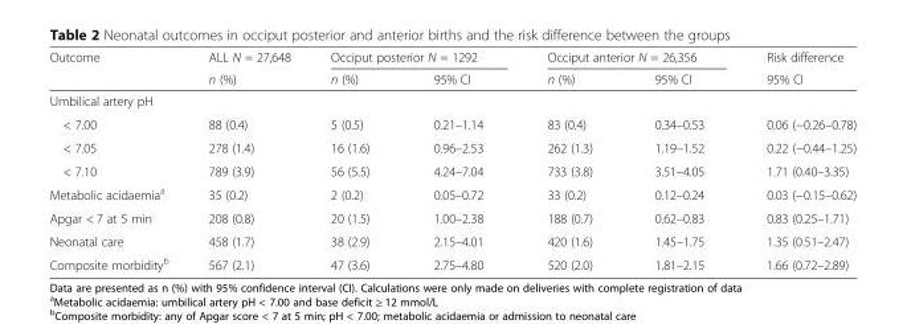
<table><thead><tr><td rowspan="2">Outcome</td><td rowspan="2">ALL N = 27,648 n (%)</td><td colspan="2">Occiput posterior N = 1292</td><td colspan="2">Occiput anterior N = 26,356</td><td rowspan="2">Risk difference 95% CI</td></tr><tr><td>n (%)</td><td>95% CI</td><td>n (%)</td><td>95% CI</td></tr></thead><tbody><tr><td colspan="7">Umbilical artery pH</td></tr><tr><td>&lt; 7.00</td><td>88 (0.4)</td><td>5 (0.5)</td><td>0.21–1.14</td><td>83 (0.4)</td><td>0.34–0.53</td><td>0.06 (−0.26–0.78)</td></tr><tr><td>&lt; 7.05</td><td>278 (1.4)</td><td>16 (1.6)</td><td>0.96–2.53</td><td>262 (1.3)</td><td>1.19–1.52</td><td>0.22 (−0.44–1.25)</td></tr><tr><td>&lt; 7.10</td><td>789 (3.9)</td><td>56 (5.5)</td><td>4.24–7.04</td><td>733 (3.8)</td><td>3.51–4.05</td><td>1.71 (0.40–3.35)</td></tr><tr><td>Metabolic acidaemia<sup>a</sup></td><td>35 (0.2)</td><td>2 (0.2)</td><td>0.05–0.72</td><td>33 (0.2)</td><td>0.12–0.24</td><td>0.03 (−0.15–0.62)</td></tr><tr><td>Apgar &lt; 7 at 5 min</td><td>208 (0.8)</td><td>20 (1.5)</td><td>1.00–2.38</td><td>188 (0.7)</td><td>0.62–0.83</td><td>0.83 (0.25–1.71)</td></tr><tr><td>Neonatal care</td><td>458 (1.7)</td><td>38 (2.9)</td><td>2.15–4.01</td><td>420 (1.6)</td><td>1.45–1.75</td><td>1.35 (0.51–2.47)</td></tr><tr><td>Composite morbidity<sup>b</sup></td><td>567 (2.1)</td><td>47 (3.6)</td><td>2.75–4.80</td><td>520 (2.0)</td><td>1.81–2.15</td><td>1.66 (0.72–2.89)</td></tr></tbody></table>